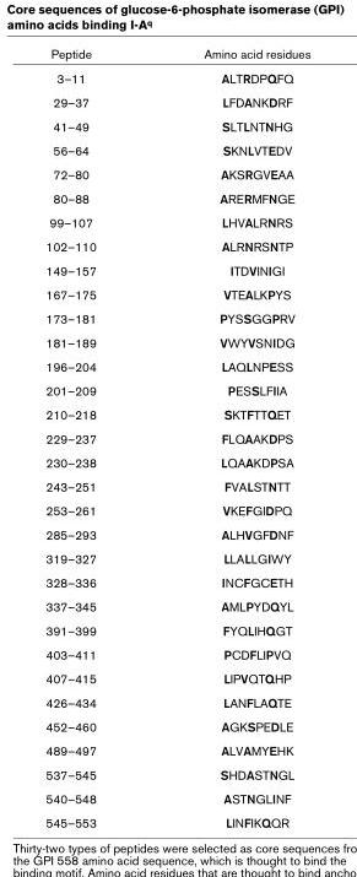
<table><thead><tr><td>Peptide</td><td>Amino acid residues</td></tr></thead><tbody><tr><td>3–11</td><td>ALTRDPQFQ</td></tr><tr><td>29–37</td><td>LFDANKDRF</td></tr><tr><td>41–49</td><td>SLTLNTNHG</td></tr><tr><td>56–64</td><td>SKNLVTEDV</td></tr><tr><td>72–80</td><td>AKSRGVEAA</td></tr><tr><td>80–88</td><td>ARERMFNGE</td></tr><tr><td>99–107</td><td>LHVALRNRS</td></tr><tr><td>102–110</td><td>ALRNRSNTP</td></tr><tr><td>149–157</td><td>ITDVINIGI</td></tr><tr><td>167–175</td><td>VTEALKPYS</td></tr><tr><td>173–181</td><td>PYSSGGPRV</td></tr><tr><td>181–189</td><td>VWYVSNIDG</td></tr><tr><td>196–204</td><td>LAQLNPESS</td></tr><tr><td>201–209</td><td>PESSLFIIA</td></tr><tr><td>210–218</td><td>SKTFTTQET</td></tr><tr><td>229–237</td><td>FLQAAKDPS</td></tr><tr><td>230–238</td><td>LQAAKDPSA</td></tr><tr><td>243–251</td><td>FVALSTNTT</td></tr><tr><td>253–261</td><td>VKEFGIDPQ</td></tr><tr><td>285–293</td><td>ALHVGFDNF</td></tr><tr><td>319–327</td><td>LLALLGIWY</td></tr><tr><td>328–336</td><td>INCFGCETH</td></tr><tr><td>337–345</td><td>AMLPYDQYL</td></tr><tr><td>391–399</td><td>FYQLIHQGT</td></tr><tr><td>403–411</td><td>PCDFLIPVQ</td></tr><tr><td>407–415</td><td>LIPVQTQHP</td></tr><tr><td>426–434</td><td>LANFLAQTE</td></tr><tr><td>452–460</td><td>AGKSPEDLE</td></tr><tr><td>489–497</td><td>ALVAMYEHK</td></tr><tr><td>537–545</td><td>SHDASTNGL</td></tr><tr><td>540–548</td><td>ASTNGLINF</td></tr><tr><td>545–553</td><td>LINFIKQQR</td></tr></tbody></table>